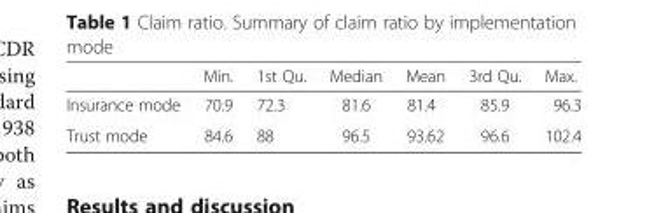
<table><thead><tr><td></td><td>Min.</td><td>1st Qu.</td><td>Median</td><td>Mean</td><td>3rd Qu.</td><td>Max.</td></tr></thead><tbody><tr><td>Insurance mode</td><td>70.9</td><td>72.3</td><td>81.6</td><td>81.4</td><td>85.9</td><td>96.3</td></tr><tr><td>Trust mode</td><td>84.6</td><td>88</td><td>96.5</td><td>93.62</td><td>96.6</td><td>102.4</td></tr></tbody></table>